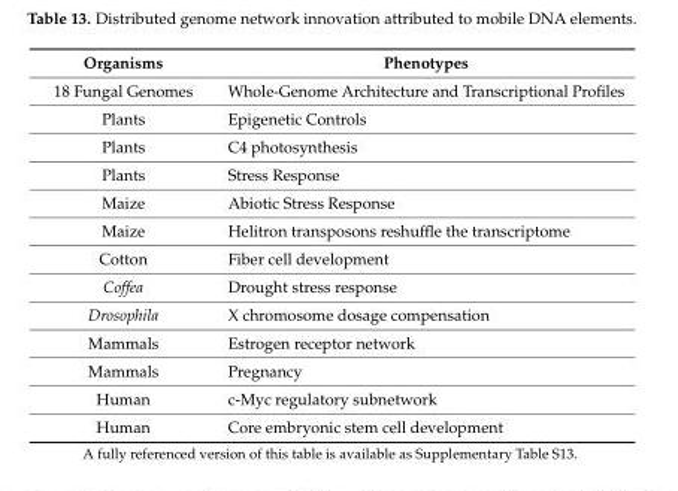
<table><thead><tr><td>Organisms</td><td>Phenotypes</td></tr></thead><tbody><tr><td>18 Fungal Genomes</td><td>Whole-Genome Architecture and Transcriptional Profiles</td></tr><tr><td>Plants</td><td>Epigenetic Controls</td></tr><tr><td>Plants</td><td>C4 photosynthesis</td></tr><tr><td>Plants</td><td>Stress Response</td></tr><tr><td>Maize</td><td>Abiotic Stress Response</td></tr><tr><td>Maize</td><td>Helitron transposons reshuffle the transcriptome</td></tr><tr><td>Cotton</td><td>Fiber cell development</td></tr><tr><td>Coffea</td><td>Drought stress response</td></tr><tr><td>Drosophila</td><td>X chromosome dosage compensation</td></tr><tr><td>Mammals</td><td>Estrogen receptor network</td></tr><tr><td>Mammals</td><td>Pregnancy</td></tr><tr><td>Human</td><td>c-Myc regulatory subnetwork</td></tr><tr><td>Human</td><td>Core embryonic stem cell development</td></tr></tbody></table>